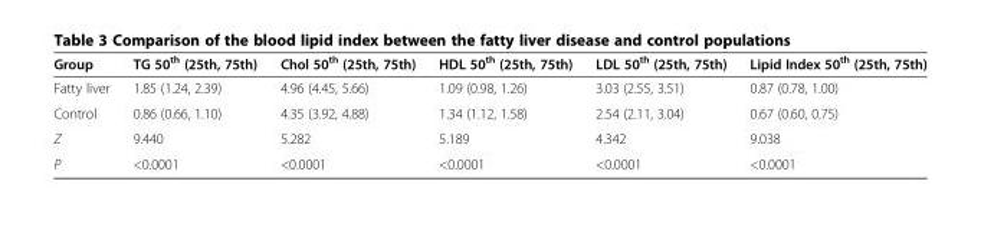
<table><thead><tr><td>Group</td><td>TG 50<sup>th</sup> (25th, 75th)</td><td>Chol 50<sup>th</sup> (25th, 75th)</td><td>HDL 50<sup>th</sup> (25th, 75th)</td><td>LDL 50<sup>th</sup> (25th, 75th)</td><td>Lipid Index 50<sup>th</sup> (25th, 75th)</td></tr></thead><tbody><tr><td>Fatty liver</td><td>1.85 (1.24, 2.39)</td><td>4.96 (4.45, 5.66)</td><td>1.09 (0.98, 1.26)</td><td>3.03 (2.55, 3.51)</td><td>0.87 (0.78, 1.00)</td></tr><tr><td>Control</td><td>0.86 (0.66, 1.10)</td><td>4.35 (3.92, 4.88)</td><td>1.34 (1.12, 1.58)</td><td>2.54 (2.11, 3.04)</td><td>0.67 (0.60, 0.75)</td></tr><tr><td>Z</td><td>9.440</td><td>5.282</td><td>5.189</td><td>4.342</td><td>9.038</td></tr><tr><td>P</td><td>&lt;0.0001</td><td>&lt;0.0001</td><td>&lt;0.0001</td><td>&lt;0.0001</td><td>&lt;0.0001</td></tr></tbody></table>